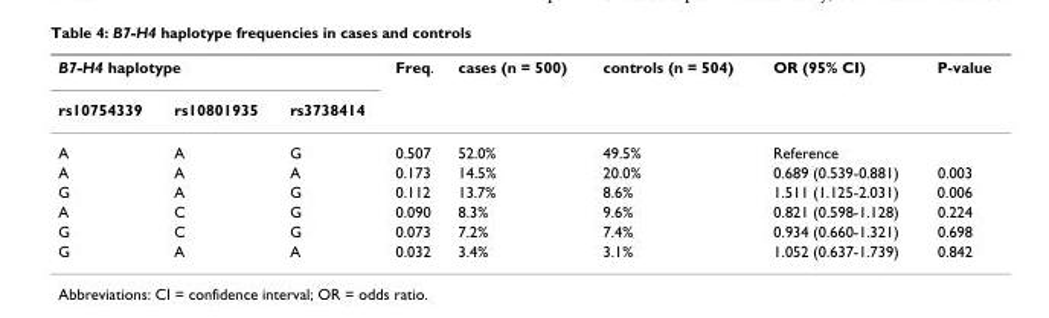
<table><thead><tr><td colspan="3">B7-H4 haplotype</td><td rowspan="2">Freq.</td><td rowspan="2">cases (n = 500)</td><td rowspan="2">controls (n = 504)</td><td rowspan="2">OR (95% CI)</td><td rowspan="2">P-value</td></tr><tr><td>rs10754339</td><td>rs10801935</td><td>rs3738414</td></tr></thead><tbody><tr><td>A</td><td>A</td><td>G</td><td>0.507</td><td>52.0%</td><td>49.5%</td><td>Reference</td><td></td></tr><tr><td>A</td><td>A</td><td>A</td><td>0.173</td><td>14.5%</td><td>20.0%</td><td>0.689 (0.539-0.881)</td><td>0.003</td></tr><tr><td>G</td><td>A</td><td>G</td><td>0.112</td><td>13.7%</td><td>8.6%</td><td>1.511 (1.125-2.031)</td><td>0.006</td></tr><tr><td>A</td><td>C</td><td>G</td><td>0.090</td><td>8.3%</td><td>9.6%</td><td>0.821 (0.598-1.128)</td><td>0.224</td></tr><tr><td>G</td><td>C</td><td>G</td><td>0.073</td><td>7.2%</td><td>7.4%</td><td>0.934 (0.660-1.321)</td><td>0.698</td></tr><tr><td>G</td><td>A</td><td>A</td><td>0.032</td><td>3.4%</td><td>3.1%</td><td>1.052 (0.637-1.739)</td><td>0.842</td></tr></tbody></table>